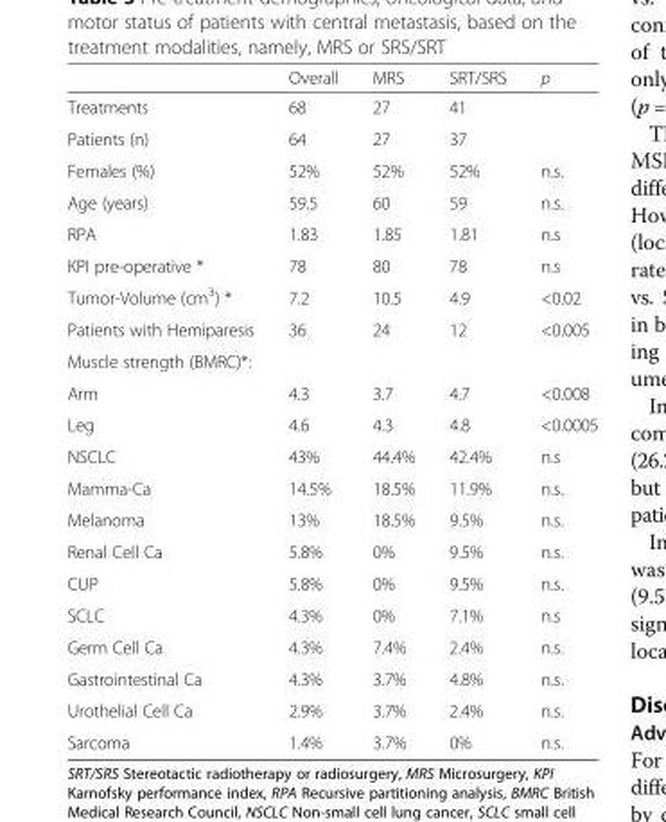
<table><thead><tr><td></td><td>Overall</td><td>MRS</td><td>SRT/SRS</td><td>p</td></tr></thead><tbody><tr><td>Treatments</td><td>68</td><td>27</td><td>41</td><td></td></tr><tr><td>Patients (n)</td><td>64</td><td>27</td><td>37</td><td></td></tr><tr><td>Females (%)</td><td>52%</td><td>52%</td><td>52%</td><td>n.s.</td></tr><tr><td>Age (years)</td><td>59.5</td><td>60</td><td>59</td><td>n.s.</td></tr><tr><td>RPA</td><td>1.83</td><td>1.85</td><td>1.81</td><td>n.s</td></tr><tr><td>KPI pre-operative *</td><td>78</td><td>80</td><td>78</td><td>n.s</td></tr><tr><td>Tumor-Volume (cm<sup>3</sup>) *</td><td>7.2</td><td>10.5</td><td>4.9</td><td>&lt;0.02</td></tr><tr><td>Patients with Hemiparesis</td><td>36</td><td>24</td><td>12</td><td>&lt;0.005</td></tr><tr><td colspan="5">Muscle strength (BMRC)*:</td></tr><tr><td>Arm</td><td>4.3</td><td>3.7</td><td>4.7</td><td>&lt;0.008</td></tr><tr><td>Leg</td><td>4.6</td><td>4.3</td><td>4.8</td><td>&lt;0.0005</td></tr><tr><td>NSCLC</td><td>43%</td><td>44.4%</td><td>42.4%</td><td>n.s</td></tr><tr><td>Mamma-Ca</td><td>14.5%</td><td>18.5%</td><td>11.9%</td><td>n.s.</td></tr><tr><td>Melanoma</td><td>13%</td><td>18.5%</td><td>9.5%</td><td>n.s.</td></tr><tr><td>Renal Cell Ca</td><td>5.8%</td><td>0%</td><td>9.5%</td><td>n.s.</td></tr><tr><td>CUP</td><td>5.8%</td><td>0%</td><td>9.5%</td><td>n.s.</td></tr><tr><td>SCLC</td><td>4.3%</td><td>0%</td><td>7.1%</td><td>n.s</td></tr><tr><td>Germ Cell Ca</td><td>4.3%</td><td>7.4%</td><td>2.4%</td><td>n.s.</td></tr><tr><td>Gastrointestinal Ca</td><td>4.3%</td><td>3.7%</td><td>4.8%</td><td>n.s.</td></tr><tr><td>Urothelial Cell Ca</td><td>2.9%</td><td>3.7%</td><td>2.4%</td><td>n.s.</td></tr><tr><td>Sarcoma</td><td>1.4%</td><td>3.7%</td><td>0%</td><td>n.s.</td></tr></tbody></table>